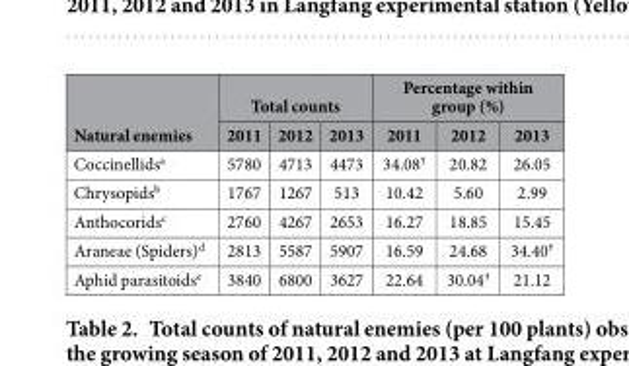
<table><thead><tr><td rowspan="2">Natural enemies</td><td colspan="3">Total counts</td><td colspan="3">Percentage within group (%)</td></tr><tr><td>2011</td><td>2012</td><td>2013</td><td>2011</td><td>2012</td><td>2013</td></tr></thead><tbody><tr><td>Coccinellids<sup>a</sup></td><td>5780</td><td>4713</td><td>4473</td><td>34.08†</td><td>20.82</td><td>26.05</td></tr><tr><td>Chrysopids<sup>b</sup></td><td>1767</td><td>1267</td><td>513</td><td>10.42</td><td>5.60</td><td>2.99</td></tr><tr><td>Anthocorids<sup>c</sup></td><td>2760</td><td>4267</td><td>2653</td><td>16.27</td><td>18.85</td><td>15.45</td></tr><tr><td>Araneae (Spiders)<sup>d</sup></td><td>2813</td><td>5587</td><td>5907</td><td>16.59</td><td>24.68</td><td>34.40†</td></tr><tr><td>Aphid parasitoids<sup>e</sup></td><td>3840</td><td>6800</td><td>3627</td><td>22.64</td><td>30.04†</td><td>21.12</td></tr></tbody></table>